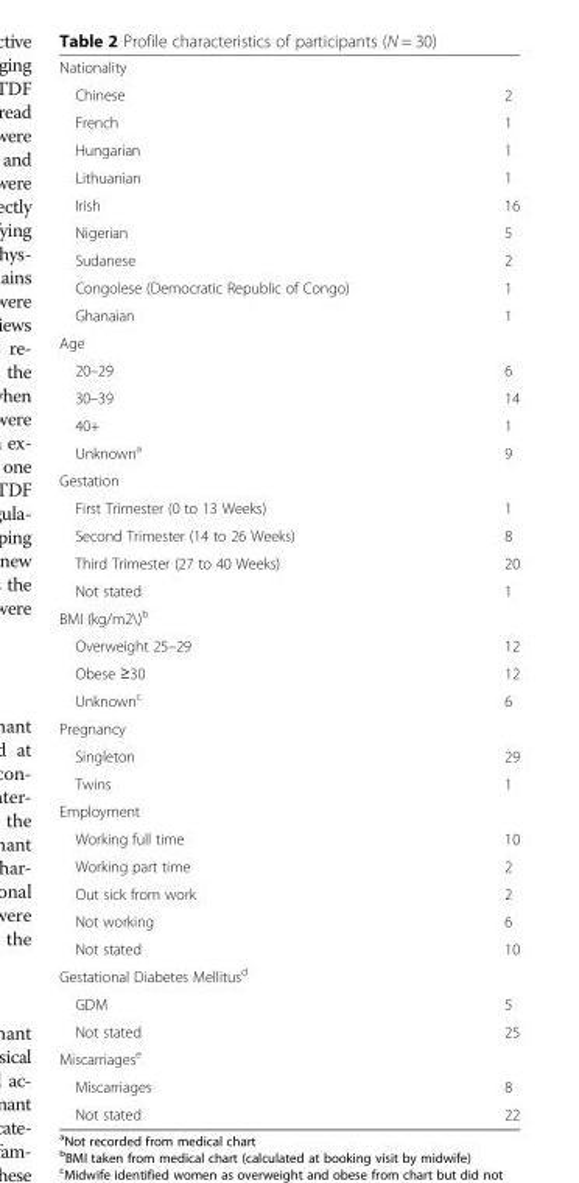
<table><tbody><tr><td colspan="2">Nationality</td></tr><tr><td>Chinese</td><td>2</td></tr><tr><td>French</td><td>1</td></tr><tr><td>Hungarian</td><td>1</td></tr><tr><td>Lithuanian</td><td>1</td></tr><tr><td>Irish</td><td>16</td></tr><tr><td>Nigerian</td><td>5</td></tr><tr><td>Sudanese</td><td>2</td></tr><tr><td>Congolese (Democratic Republic of Congo)</td><td>1</td></tr><tr><td>Ghanaian</td><td>1</td></tr><tr><td colspan="2">Age</td></tr><tr><td>20–29</td><td>6</td></tr><tr><td>30–39</td><td>14</td></tr><tr><td>40+</td><td>1</td></tr><tr><td>Unknown<sup>a</sup></td><td>9</td></tr><tr><td colspan="2">Gestation</td></tr><tr><td>First Trimester (0 to 13 Weeks)</td><td>1</td></tr><tr><td>Second Trimester (14 to 26 Weeks)</td><td>8</td></tr><tr><td>Third Trimester (27 to 40 Weeks)</td><td>20</td></tr><tr><td>Not stated</td><td>1</td></tr><tr><td colspan="2">BMI (kg/m2\)<sup>b</sup></td></tr><tr><td>Overweight 25–29</td><td>12</td></tr><tr><td>Obese ≥30</td><td>12</td></tr><tr><td>Unknown<sup>c</sup></td><td>6</td></tr><tr><td colspan="2">Pregnancy</td></tr><tr><td>Singleton</td><td>29</td></tr><tr><td>Twins</td><td>1</td></tr><tr><td colspan="2">Employment</td></tr><tr><td>Working full time</td><td>10</td></tr><tr><td>Working part time</td><td>2</td></tr><tr><td>Out sick from work</td><td>2</td></tr><tr><td>Not working</td><td>6</td></tr><tr><td>Not stated</td><td>10</td></tr><tr><td colspan="2">Gestational Diabetes Mellitus<sup>d</sup></td></tr><tr><td>GDM</td><td>5</td></tr><tr><td>Not stated</td><td>25</td></tr><tr><td colspan="2">Miscarriages<sup>e</sup></td></tr><tr><td>Miscarriages</td><td>8</td></tr><tr><td>Not stated</td><td>22</td></tr></tbody></table>